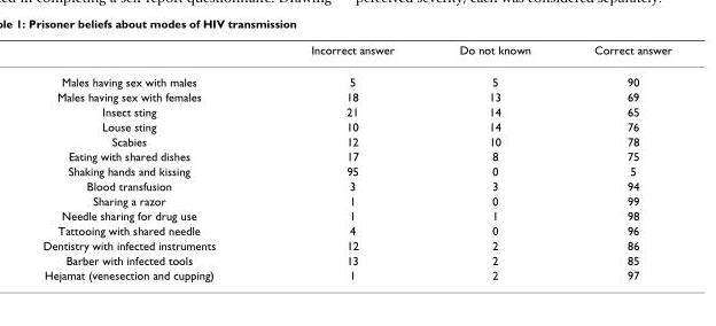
<table><thead><tr><td></td><td>Incorrect answer</td><td>Do not known</td><td>Correct answer</td></tr></thead><tbody><tr><td>Males having sex with males</td><td>5</td><td>5</td><td>90</td></tr><tr><td>Males having sex with females</td><td>18</td><td>13</td><td>69</td></tr><tr><td>Insect sting</td><td>21</td><td>14</td><td>65</td></tr><tr><td>Louse sting</td><td>10</td><td>14</td><td>76</td></tr><tr><td>Scabies</td><td>12</td><td>10</td><td>78</td></tr><tr><td>Eating with shared dishes</td><td>17</td><td>8</td><td>75</td></tr><tr><td>Shaking hands and kissing</td><td>95</td><td>0</td><td>5</td></tr><tr><td>Blood transfusion</td><td>3</td><td>3</td><td>94</td></tr><tr><td>Sharing a razor</td><td>1</td><td>0</td><td>99</td></tr><tr><td>Needle sharing for drug use</td><td>1</td><td>1</td><td>98</td></tr><tr><td>Tattooing with shared needle</td><td>4</td><td>0</td><td>96</td></tr><tr><td>Dentistry with infected instruments</td><td>12</td><td>2</td><td>86</td></tr><tr><td>Barber with infected tools</td><td>13</td><td>2</td><td>85</td></tr><tr><td>Hejamat (venesection and cupping)</td><td>1</td><td>2</td><td>97</td></tr></tbody></table>